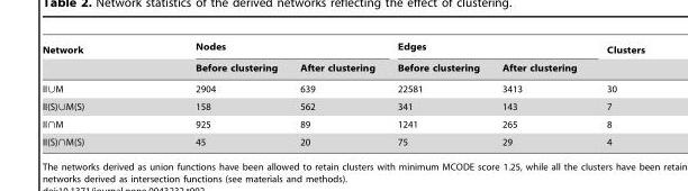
<table><thead><tr><td rowspan="2">Network</td><td colspan="2">Nodes</td><td colspan="2">Edges</td><td rowspan="2">Clusters</td></tr><tr><td>Before clustering</td><td>After clustering</td><td>Before clustering</td><td>After clustering</td></tr></thead><tbody><tr><td>II&lt;M</td><td>2904</td><td>639</td><td>22581</td><td>3413</td><td>30</td></tr><tr><td>II(S)&lt;M(S)</td><td>158</td><td>562</td><td>341</td><td>143</td><td>7</td></tr><tr><td>II&gt;M</td><td>925</td><td>89</td><td>1241</td><td>265</td><td>8</td></tr><tr><td>II(S)&gt;M(S)</td><td>45</td><td>20</td><td>75</td><td>29</td><td>4</td></tr></tbody></table>